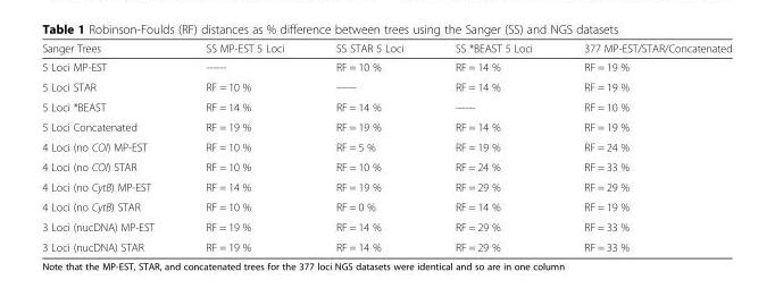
<table><thead><tr><td>Sanger Trees</td><td>SS MP-EST 5 Loci</td><td>SS STAR 5 Loci</td><td>SS *BEAST 5 Loci</td><td>377 MP-EST/STAR/Concatenated</td></tr></thead><tbody><tr><td>5 Loci MP-EST</td><td>------</td><td>RF = 10 %</td><td>RF = 14 %</td><td>RF = 19 %</td></tr><tr><td>5 Loci STAR</td><td>RF = 10 %</td><td>------</td><td>RF = 14 %</td><td>RF = 19 %</td></tr><tr><td>5 Loci *BEAST</td><td>RF = 14 %</td><td>RF = 14 %</td><td>------</td><td>RF = 10 %</td></tr><tr><td>5 Loci Concatenated</td><td>RF = 19 %</td><td>RF = 19 %</td><td>RF = 14 %</td><td>RF = 19 %</td></tr><tr><td>4 Loci (no COI) MP-EST</td><td>RF = 10 %</td><td>RF = 5 %</td><td>RF = 19 %</td><td>RF = 24 %</td></tr><tr><td>4 Loci (no COI) STAR</td><td>RF = 10 %</td><td>RF = 10 %</td><td>RF = 24 %</td><td>RF = 33 %</td></tr><tr><td>4 Loci (no CytB) MP-EST</td><td>RF = 14 %</td><td>RF = 19 %</td><td>RF = 29 %</td><td>RF = 29 %</td></tr><tr><td>4 Loci (no CytB) STAR</td><td>RF = 10 %</td><td>RF = 0 %</td><td>RF = 14 %</td><td>RF = 19 %</td></tr><tr><td>3 Loci (nucDNA) MP-EST</td><td>RF = 19 %</td><td>RF = 14 %</td><td>RF = 29 %</td><td>RF = 33 %</td></tr><tr><td>3 Loci (nucDNA) STAR</td><td>RF = 19 %</td><td>RF = 14 %</td><td>RF = 29 %</td><td>RF = 33 %</td></tr></tbody></table>